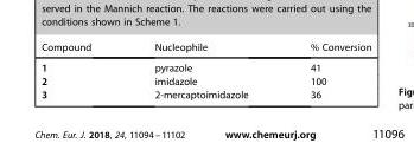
<table><thead><tr><td>Compound</td><td>Nucleophile</td><td>% Conversion</td></tr></thead><tbody><tr><td>1</td><td>pyrazole</td><td>41</td></tr><tr><td>2</td><td>imidazole</td><td>100</td></tr><tr><td>3</td><td>2-mercaptoimidazole</td><td>36</td></tr></tbody></table>